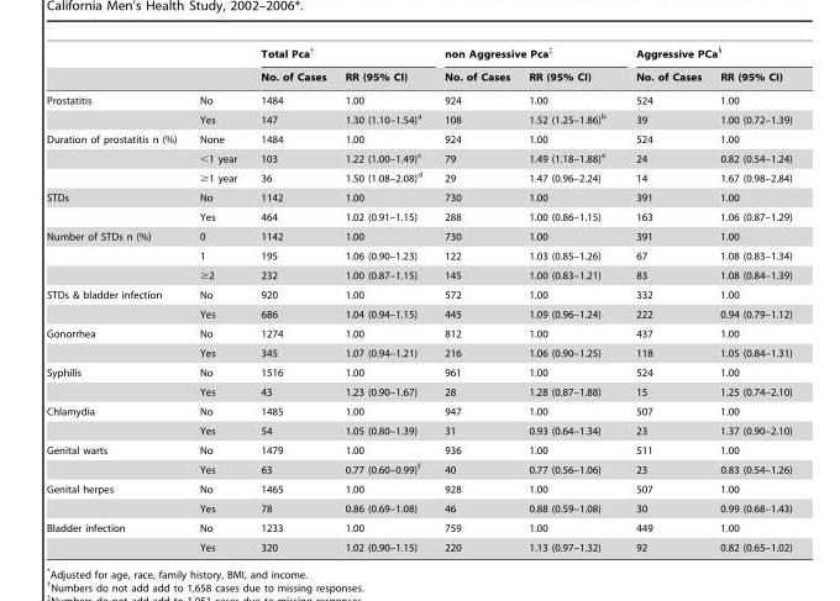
<table><thead><tr><td rowspan="2"></td><td rowspan="2"></td><td colspan="2">Total Pca†</td><td colspan="2">non Aggressive Pca‡</td><td colspan="2">Aggressive PCa<sup>§</sup></td></tr><tr><td>No. of Cases</td><td>RR (95% CI)</td><td>No. of Cases</td><td>RR (95% CI)</td><td>No. of Cases</td><td>RR (95% CI)</td></tr></thead><tbody><tr><td rowspan="2">Prostatitis</td><td>No</td><td>1484</td><td>1.00</td><td>924</td><td>1.00</td><td>524</td><td>1.00</td></tr><tr><td>Yes</td><td>147</td><td>1.30 (1.10–1.54)<sup>a</sup></td><td>108</td><td>1.52 (1.25–1.86)<sup>b</sup></td><td>39</td><td>1.00 (0.72–1.39)</td></tr><tr><td rowspan="3">Duration of prostatitis n (%)</td><td>None</td><td>1484</td><td>1.00</td><td>924</td><td>1.00</td><td>524</td><td>1.00</td></tr><tr><td>&lt;1 year</td><td>103</td><td>1.22 (1.00–1.49)<sup>c</sup></td><td>79</td><td>1.49 (1.18–1.88)<sup>e</sup></td><td>24</td><td>0.82 (0.54–1.24)</td></tr><tr><td>≥1 year</td><td>36</td><td>1.50 (1.08–2.08)<sup>d</sup></td><td>29</td><td>1.47 (0.96–2.24)</td><td>14</td><td>1.67 (0.98–2.84)</td></tr><tr><td rowspan="2">STDs</td><td>No</td><td>1142</td><td>1.00</td><td>730</td><td>1.00</td><td>391</td><td>1.00</td></tr><tr><td>Yes</td><td>464</td><td>1.02 (0.91–1.15)</td><td>288</td><td>1.00 (0.86–1.15)</td><td>163</td><td>1.06 (0.87–1.29)</td></tr><tr><td rowspan="3">Number of STDs n (%)</td><td>0</td><td>1142</td><td>1.00</td><td>730</td><td>1.00</td><td>391</td><td>1.00</td></tr><tr><td>1</td><td>195</td><td>1.06 (0.90–1.23)</td><td>122</td><td>1.03 (0.85–1.26)</td><td>67</td><td>1.08 (0.83–1.34)</td></tr><tr><td>≥2</td><td>232</td><td>1.00 (0.87–1.15)</td><td>145</td><td>1.00 (0.83–1.21)</td><td>83</td><td>1.08 (0.84–1.39)</td></tr><tr><td rowspan="2">STDs &amp; bladder infection</td><td>No</td><td>920</td><td>1.00</td><td>572</td><td>1.00</td><td>332</td><td>1.00</td></tr><tr><td>Yes</td><td>686</td><td>1.04 (0.94–1.15)</td><td>445</td><td>1.09 (0.96–1.24)</td><td>222</td><td>0.94 (0.79–1.12)</td></tr><tr><td rowspan="2">Gonorrhea</td><td>No</td><td>1274</td><td>1.00</td><td>812</td><td>1.00</td><td>437</td><td>1.00</td></tr><tr><td>Yes</td><td>345</td><td>1.07 (0.94–1.21)</td><td>216</td><td>1.06 (0.90–1.25)</td><td>118</td><td>1.05 (0.84–1.31)</td></tr><tr><td rowspan="2">Syphilis</td><td>No</td><td>1516</td><td>1.00</td><td>961</td><td>1.00</td><td>524</td><td>1.00</td></tr><tr><td>Yes</td><td>43</td><td>1.23 (0.90–1.67)</td><td>28</td><td>1.28 (0.87–1.88)</td><td>15</td><td>1.25 (0.74–2.10)</td></tr><tr><td rowspan="2">Chlamydia</td><td>No</td><td>1485</td><td>1.00</td><td>947</td><td>1.00</td><td>507</td><td>1.00</td></tr><tr><td>Yes</td><td>54</td><td>1.05 (0.80–1.39)</td><td>31</td><td>0.93 (0.64–1.34)</td><td>23</td><td>1.37 (0.90–2.10)</td></tr><tr><td rowspan="2">Genital warts</td><td>No</td><td>1479</td><td>1.00</td><td>936</td><td>1.00</td><td>511</td><td>1.00</td></tr><tr><td>Yes</td><td>63</td><td>0.77 (0.60–0.99)<sup>f</sup></td><td>40</td><td>0.77 (0.56–1.06)</td><td>23</td><td>0.83 (0.54–1.26)</td></tr><tr><td rowspan="2">Genital herpes</td><td>No</td><td>1465</td><td>1.00</td><td>928</td><td>1.00</td><td>507</td><td>1.00</td></tr><tr><td>Yes</td><td>78</td><td>0.86 (0.69–1.08)</td><td>46</td><td>0.88 (0.59–1.08)</td><td>30</td><td>0.99 (0.68–1.43)</td></tr><tr><td rowspan="2">Bladder infection</td><td>No</td><td>1233</td><td>1.00</td><td>759</td><td>1.00</td><td>449</td><td>1.00</td></tr><tr><td>Yes</td><td>320</td><td>1.02 (0.90–1.15)</td><td>220</td><td>1.13 (0.97–1.32)</td><td>92</td><td>0.82 (0.65–1.02)</td></tr></tbody></table>